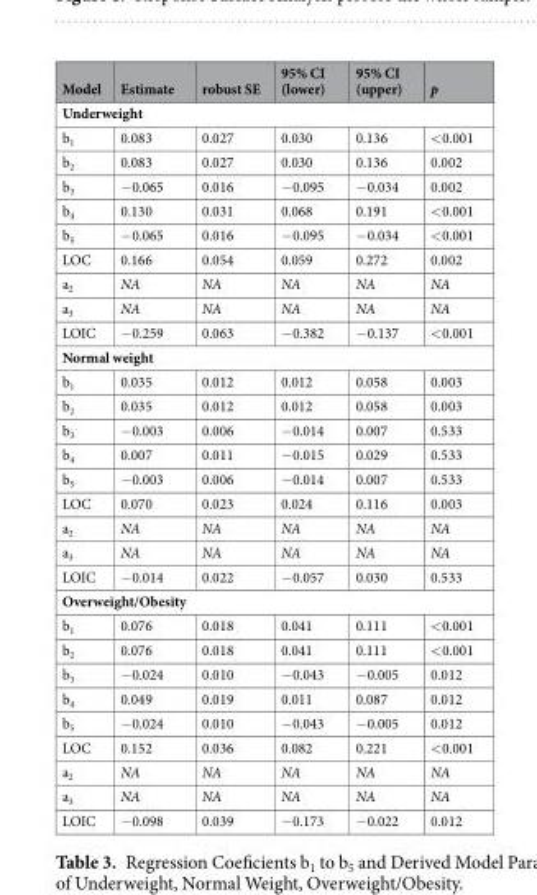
<table><thead><tr><td>Model</td><td>Estimate</td><td>robust SE</td><td>95% CI (lower)</td><td>95% CI (upper)</td><td>p</td></tr></thead><tbody><tr><td colspan="6">Underweight</td></tr><tr><td>b<sub>1</sub></td><td>0.083</td><td>0.027</td><td>0.030</td><td>0.136</td><td>&lt;0.001</td></tr><tr><td>b<sub>2</sub></td><td>0.083</td><td>0.027</td><td>0.030</td><td>0.136</td><td>0.002</td></tr><tr><td>b<sub>3</sub></td><td>−0.065</td><td>0.016</td><td>−0.095</td><td>−0.034</td><td>0.002</td></tr><tr><td>b<sub>4</sub></td><td>0.130</td><td>0.031</td><td>0.068</td><td>0.191</td><td>&lt;0.001</td></tr><tr><td>b<sub>5</sub></td><td>−0.065</td><td>0.016</td><td>−0.095</td><td>−0.034</td><td>&lt;0.001</td></tr><tr><td>LOC</td><td>0.166</td><td>0.054</td><td>0.059</td><td>0.272</td><td>0.002</td></tr><tr><td>a<sub>2</sub></td><td>NA</td><td>NA</td><td>NA</td><td>NA</td><td>NA</td></tr><tr><td>a<sub>3</sub></td><td>NA</td><td>NA</td><td>NA</td><td>NA</td><td>NA</td></tr><tr><td>LOIC</td><td>−0.259</td><td>0.063</td><td>−0.382</td><td>−0.137</td><td>&lt;0.001</td></tr><tr><td colspan="6">Normal weight</td></tr><tr><td>b<sub>1</sub></td><td>0.035</td><td>0.012</td><td>0.012</td><td>0.058</td><td>0.003</td></tr><tr><td>b<sub>2</sub></td><td>0.035</td><td>0.012</td><td>0.012</td><td>0.058</td><td>0.003</td></tr><tr><td>b<sub>3</sub></td><td>−0.003</td><td>0.006</td><td>−0.014</td><td>0.007</td><td>0.533</td></tr><tr><td>b<sub>4</sub></td><td>0.007</td><td>0.011</td><td>−0.015</td><td>0.029</td><td>0.533</td></tr><tr><td>b<sub>5</sub></td><td>−0.003</td><td>0.006</td><td>−0.014</td><td>0.007</td><td>0.533</td></tr><tr><td>LOC</td><td>0.070</td><td>0.023</td><td>0.024</td><td>0.116</td><td>0.003</td></tr><tr><td>a<sub>2</sub></td><td>NA</td><td>NA</td><td>NA</td><td>NA</td><td>NA</td></tr><tr><td>a<sub>3</sub></td><td>NA</td><td>NA</td><td>NA</td><td>NA</td><td>NA</td></tr><tr><td>LOIC</td><td>−0.014</td><td>0.022</td><td>−0.057</td><td>0.030</td><td>0.533</td></tr><tr><td colspan="6">Overweight/Obesity</td></tr><tr><td>b<sub>1</sub></td><td>0.076</td><td>0.018</td><td>0.041</td><td>0.111</td><td>&lt;0.001</td></tr><tr><td>b<sub>2</sub></td><td>0.076</td><td>0.018</td><td>0.041</td><td>0.111</td><td>&lt;0.001</td></tr><tr><td>b<sub>3</sub></td><td>−0.024</td><td>0.010</td><td>−0.043</td><td>−0.005</td><td>0.012</td></tr><tr><td>b<sub>4</sub></td><td>0.049</td><td>0.019</td><td>0.011</td><td>0.087</td><td>0.012</td></tr><tr><td>b<sub>5</sub></td><td>−0.024</td><td>0.010</td><td>−0.043</td><td>−0.005</td><td>0.012</td></tr><tr><td>LOC</td><td>0.152</td><td>0.036</td><td>0.082</td><td>0.221</td><td>&lt;0.001</td></tr><tr><td>a<sub>2</sub></td><td>NA</td><td>NA</td><td>NA</td><td>NA</td><td>NA</td></tr><tr><td>a<sub>3</sub></td><td>NA</td><td>NA</td><td>NA</td><td>NA</td><td>NA</td></tr><tr><td>LOIC</td><td>−0.098</td><td>0.039</td><td>−0.173</td><td>−0.022</td><td>0.012</td></tr></tbody></table>